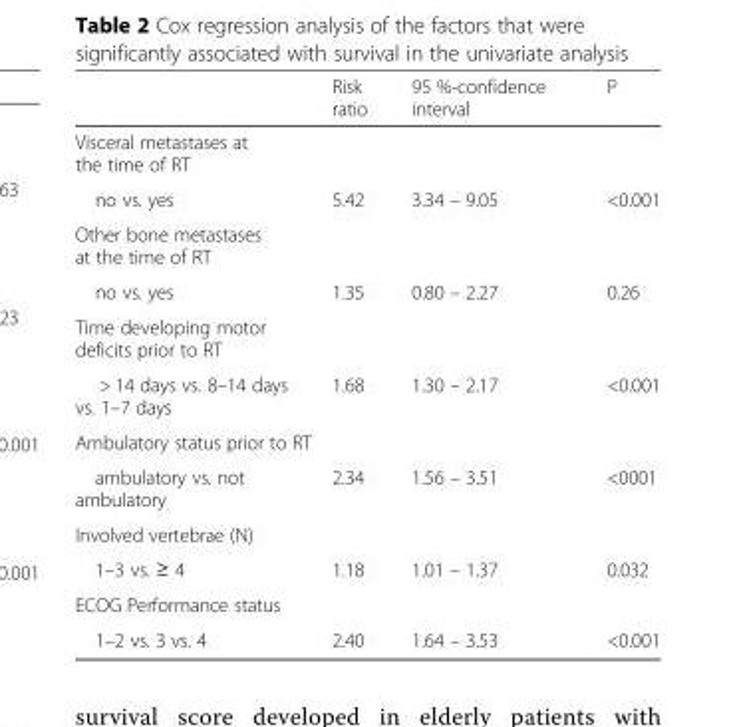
<table><thead><tr><td></td><td>Risk ratio</td><td>95 %-confidence interval</td><td>P</td></tr></thead><tbody><tr><td colspan="4">Visceral metastases at the time of RT</td></tr><tr><td>no vs. yes</td><td>5.42</td><td>3.34 – 9.05</td><td>&lt;0.001</td></tr><tr><td colspan="4">Other bone metastases at the time of RT</td></tr><tr><td>no vs. yes</td><td>1.35</td><td>0.80 – 2.27</td><td>0.26</td></tr><tr><td colspan="4">Time developing motor deficits prior to RT</td></tr><tr><td>&gt; 14 days vs. 8–14 days vs. 1–7 days</td><td>1.68</td><td>1.30 – 2.17</td><td>&lt;0.001</td></tr><tr><td colspan="4">Ambulatory status prior to RT</td></tr><tr><td>ambulatory vs. not ambulatory</td><td>2.34</td><td>1.56 – 3.51</td><td>&lt;0001</td></tr><tr><td colspan="4">Involved vertebrae (N)</td></tr><tr><td>1–3 vs. ≥ 4</td><td>1.18</td><td>1.01 – 1.37</td><td>0.032</td></tr><tr><td colspan="4">ECOG Performance status</td></tr><tr><td>1–2 vs. 3 vs. 4</td><td>2.40</td><td>1.64 – 3.53</td><td>&lt;0.001</td></tr></tbody></table>